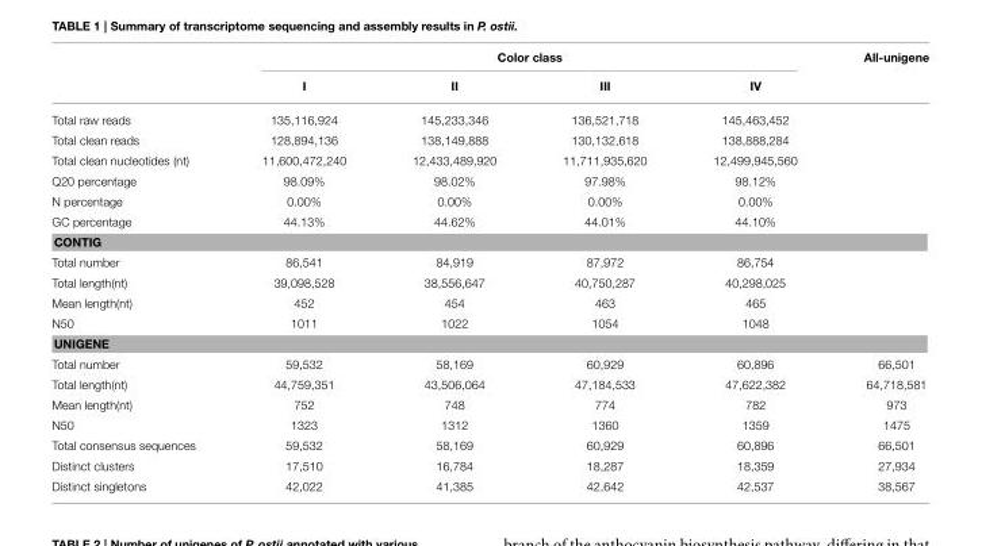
<table><thead><tr><td rowspan="2"></td><td colspan="4">Color class</td><td rowspan="2">All-unigene</td></tr><tr><td>I</td><td>II</td><td>III</td><td>IV</td></tr></thead><tbody><tr><td>Total raw reads</td><td>135,116,924</td><td>145,233,346</td><td>136,521,718</td><td>145,463,452</td><td></td></tr><tr><td>Total clean reads</td><td>128,894,136</td><td>138,149,888</td><td>130,132,618</td><td>138,888,284</td><td></td></tr><tr><td>Total clean nucleotides (nt)</td><td>11,600,472,240</td><td>12,433,489,920</td><td>11,711,935,620</td><td>12,499,945,560</td><td></td></tr><tr><td>Q20 percentage</td><td>98.09%</td><td>98.02%</td><td>97.98%</td><td>98.12%</td><td></td></tr><tr><td>N percentage</td><td>0.00%</td><td>0.00%</td><td>0.00%</td><td>0.00%</td><td></td></tr><tr><td>GC percentage</td><td>44.13%</td><td>44.62%</td><td>44.01%</td><td>44.10%</td><td></td></tr><tr><td colspan="6">CONTIG</td></tr><tr><td>Total number</td><td>86,541</td><td>84,919</td><td>87,972</td><td>86,754</td><td></td></tr><tr><td>Total length(nt)</td><td>39,098,528</td><td>38,556,647</td><td>40,750,287</td><td>40,298,025</td><td></td></tr><tr><td>Mean length(nt)</td><td>452</td><td>454</td><td>463</td><td>465</td><td></td></tr><tr><td>N50</td><td>1011</td><td>1022</td><td>1054</td><td>1048</td><td></td></tr><tr><td colspan="6">UNIGENE</td></tr><tr><td>Total number</td><td>59,532</td><td>58,169</td><td>60,929</td><td>60,896</td><td>66,501</td></tr><tr><td>Total length(nt)</td><td>44,759,351</td><td>43,506,064</td><td>47,184,533</td><td>47,622,382</td><td>64,718,581</td></tr><tr><td>Mean length(nt)</td><td>752</td><td>748</td><td>774</td><td>782</td><td>973</td></tr><tr><td>N50</td><td>1323</td><td>1312</td><td>1360</td><td>1359</td><td>1475</td></tr><tr><td>Total consensus sequences</td><td>59,532</td><td>58,169</td><td>60,929</td><td>60,896</td><td>66,501</td></tr><tr><td>Distinct clusters</td><td>17,510</td><td>16,784</td><td>18,287</td><td>18,359</td><td>27,934</td></tr><tr><td>Distinct singletons</td><td>42,022</td><td>41,385</td><td>42,642</td><td>42,537</td><td>38,567</td></tr></tbody></table>